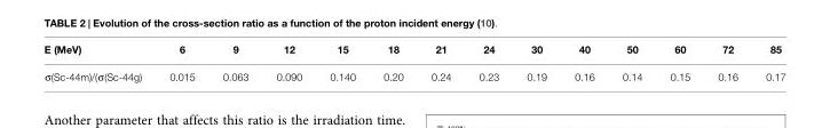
<table><thead><tr><td>E (MeV)</td><td>6</td><td>9</td><td>12</td><td>15</td><td>18</td><td>21</td><td>24</td><td>30</td><td>40</td><td>50</td><td>60</td><td>72</td><td>85</td></tr></thead><tbody><tr><td>σ(Sc-44m)/(σ(Sc-44g)</td><td>0.015</td><td>0.063</td><td>0.090</td><td>0.140</td><td>0.20</td><td>0.24</td><td>0.23</td><td>0.19</td><td>0.16</td><td>0.14</td><td>0.15</td><td>0.16</td><td>0.17</td></tr></tbody></table>